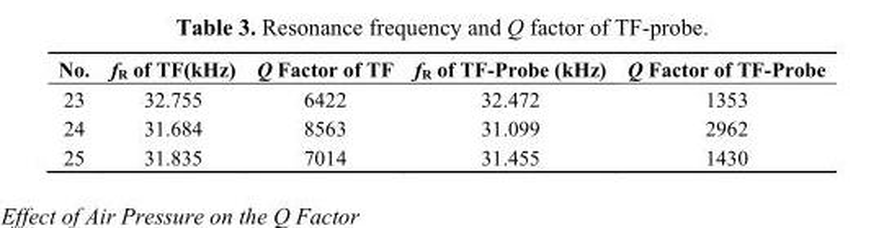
<table><thead><tr><td>No.</td><td>f<sub>R</sub> of TF(kHz)</td><td>Q Factor of TF</td><td>f<sub>R</sub> of TF-Probe (kHz)</td><td>Q Factor of TF-Probe</td></tr></thead><tbody><tr><td>23</td><td>32.755</td><td>6422</td><td>32.472</td><td>1353</td></tr><tr><td>24</td><td>31.684</td><td>8563</td><td>31.099</td><td>2962</td></tr><tr><td>25</td><td>31.835</td><td>7014</td><td>31.455</td><td>1430</td></tr></tbody></table>